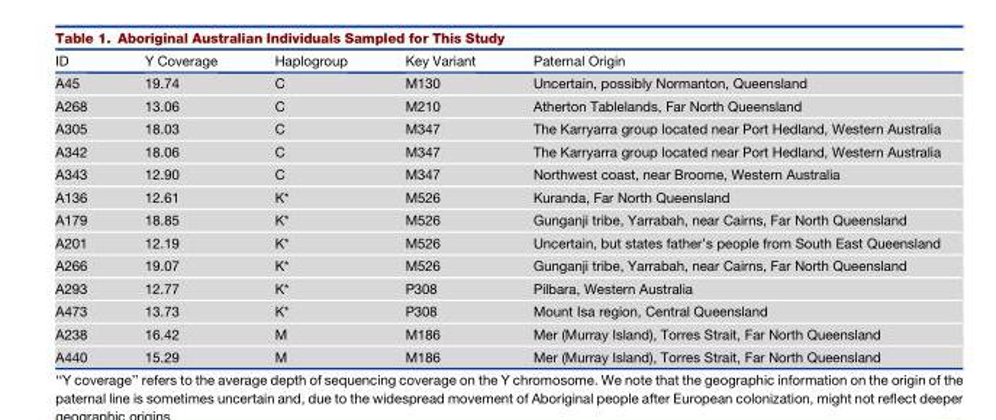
<table><thead><tr><td>ID</td><td>Y Coverage</td><td>Haplogroup</td><td>Key Variant</td><td>Paternal Origin</td></tr></thead><tbody><tr><td>A45</td><td>19.74</td><td>C</td><td>M130</td><td>Uncertain, possibly Normanton, Queensland</td></tr><tr><td>A268</td><td>13.06</td><td>C</td><td>M210</td><td>Atherton Tablelands, Far North Queensland</td></tr><tr><td>A305</td><td>18.03</td><td>C</td><td>M347</td><td>The Karryarra group located near Port Hedland, Western Australia</td></tr><tr><td>A342</td><td>18.06</td><td>C</td><td>M347</td><td>The Karryarra group located near Port Hedland, Western Australia</td></tr><tr><td>A343</td><td>12.90</td><td>C</td><td>M347</td><td>Northwest coast, near Broome, Western Australia</td></tr><tr><td>A136</td><td>12.61</td><td>K*</td><td>M526</td><td>Kuranda, Far North Queensland</td></tr><tr><td>A179</td><td>18.85</td><td>K*</td><td>M526</td><td>Gunganji tribe, Yarrabah, near Cairns, Far North Queensland</td></tr><tr><td>A201</td><td>12.19</td><td>K*</td><td>M526</td><td>Uncertain, but states father’s people from South East Queensland</td></tr><tr><td>A266</td><td>19.07</td><td>K*</td><td>M526</td><td>Gunganji tribe, Yarrabah, near Cairns, Far North Queensland</td></tr><tr><td>A293</td><td>12.77</td><td>K*</td><td>P308</td><td>Pilbara, Western Australia</td></tr><tr><td>A473</td><td>13.73</td><td>K*</td><td>P308</td><td>Mount Isa region, Central Queensland</td></tr><tr><td>A238</td><td>16.42</td><td>M</td><td>M186</td><td>Mer (Murray Island), Torres Strait, Far North Queensland</td></tr><tr><td>A440</td><td>15.29</td><td>M</td><td>M186</td><td>Mer (Murray Island), Torres Strait, Far North Queensland</td></tr></tbody></table>